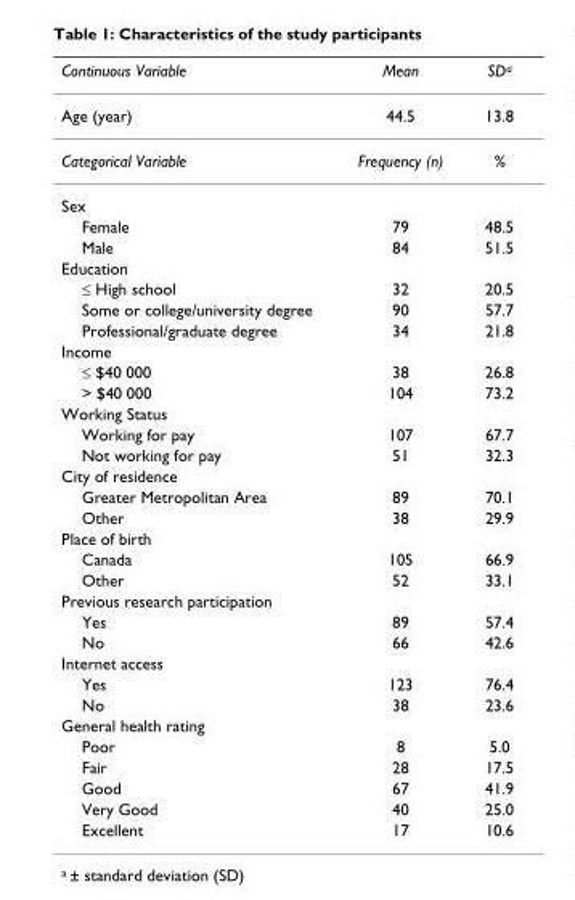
<table><thead><tr><td>Continuous Variable</td><td>Mean</td><td>SD<sup>a</sup></td></tr></thead><tbody><tr><td>Age (year)</td><td>44.5</td><td>13.8</td></tr><tr><td>Categorical Variable</td><td>Frequency (n)</td><td>%</td></tr><tr><td colspan="3">Sex</td></tr><tr><td>Female</td><td>79</td><td>48.5</td></tr><tr><td>Male</td><td>84</td><td>51.5</td></tr><tr><td colspan="3">Education</td></tr><tr><td>≤ High school</td><td>32</td><td>20.5</td></tr><tr><td>Some or college/university degree</td><td>90</td><td>57.7</td></tr><tr><td>Professional/graduate degree</td><td>34</td><td>21.8</td></tr><tr><td colspan="3">Income</td></tr><tr><td>≤ $40 000</td><td>38</td><td>26.8</td></tr><tr><td>&gt; $40 000</td><td>104</td><td>73.2</td></tr><tr><td colspan="3">Working Status</td></tr><tr><td>Working for pay</td><td>107</td><td>67.7</td></tr><tr><td>Not working for pay</td><td>51</td><td>32.3</td></tr><tr><td colspan="3">City of residence</td></tr><tr><td>Greater Metropolitan Area</td><td>89</td><td>70.1</td></tr><tr><td>Other</td><td>38</td><td>29.9</td></tr><tr><td colspan="3">Place of birth</td></tr><tr><td>Canada</td><td>105</td><td>66.9</td></tr><tr><td>Other</td><td>52</td><td>33.1</td></tr><tr><td colspan="3">Previous research participation</td></tr><tr><td>Yes</td><td>89</td><td>57.4</td></tr><tr><td>No</td><td>66</td><td>42.6</td></tr><tr><td colspan="3">Internet access</td></tr><tr><td>Yes</td><td>123</td><td>76.4</td></tr><tr><td>No</td><td>38</td><td>23.6</td></tr><tr><td colspan="3">General health rating</td></tr><tr><td>Poor</td><td>8</td><td>5.0</td></tr><tr><td>Fair</td><td>28</td><td>17.5</td></tr><tr><td>Good</td><td>67</td><td>41.9</td></tr><tr><td>Very Good</td><td>40</td><td>25.0</td></tr><tr><td>Excellent</td><td>17</td><td>10.6</td></tr></tbody></table>